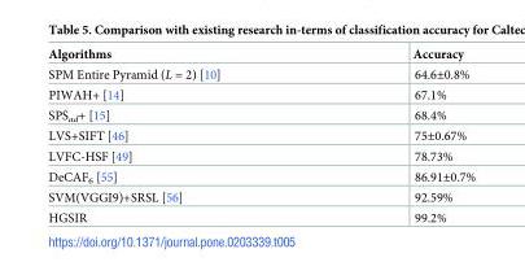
<table><thead><tr><td>Algorithms</td><td>Accuracy</td></tr></thead><tbody><tr><td>SPM Entire Pyramid (L = 2) [10]</td><td>64.6±0.8%</td></tr><tr><td>PIWAH+ [14]</td><td>67.1%</td></tr><tr><td>SPS<sub>ad</sub>+ [15]</td><td>68.4%</td></tr><tr><td>LVS+SIFT [46]</td><td>75±0.67%</td></tr><tr><td>LVFC-HSF [49]</td><td>78.73%</td></tr><tr><td>DeCAF<sub>6</sub> [55]</td><td>86.91±0.7%</td></tr><tr><td>SVM(VGGI9)+SRSL [56]</td><td>92.59%</td></tr><tr><td>HGSIR</td><td>99.2%</td></tr></tbody></table>